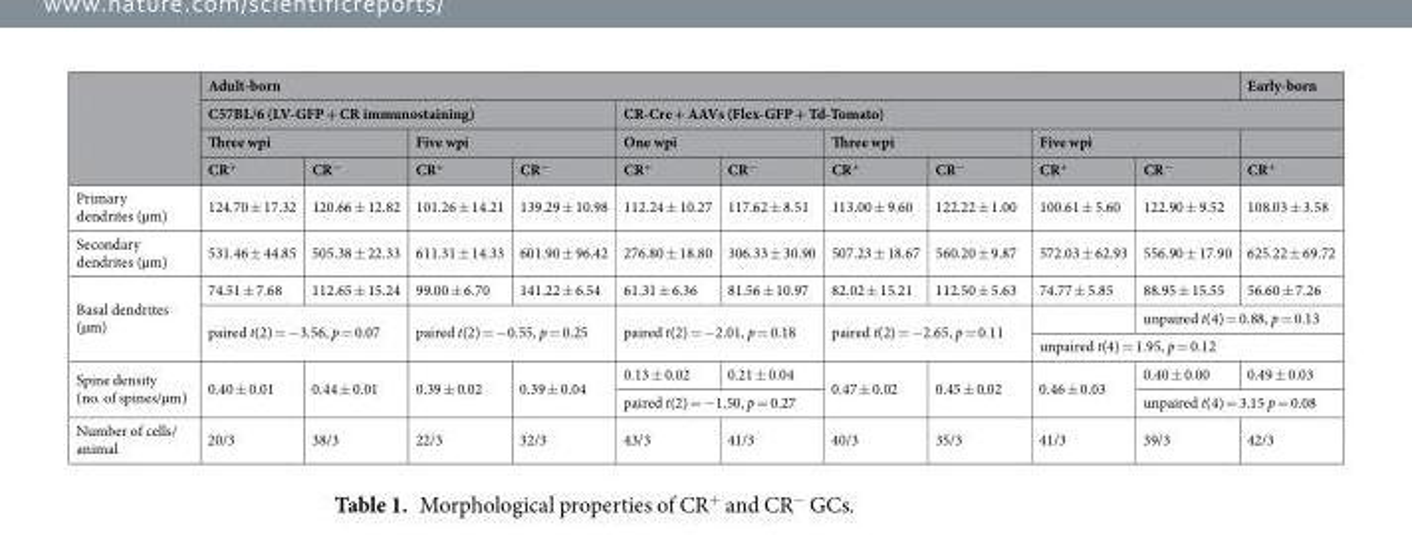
<table><thead><tr><td rowspan="4"></td><td colspan="10">Adult-born</td><td>Early-born</td></tr><tr><td colspan="4">C57BL/6 (LV-GFP + CR immunostaining)</td><td colspan="7">CR-Cre + AAVs (Flex-GFP + Td-Tomato)</td></tr><tr><td colspan="2">Three wpi</td><td colspan="2">Five wpi</td><td colspan="2">One wpi</td><td colspan="2">Three wpi</td><td colspan="2">Five wpi</td><td rowspan="2">CR<sup>+</sup></td></tr><tr><td>CR<sup>+</sup></td><td>CR<sup>−</sup></td><td>CR<sup>+</sup></td><td>CR<sup>−</sup></td><td>CR<sup>+</sup></td><td>CR<sup>−</sup></td><td>CR<sup>+</sup></td><td>CR<sup>−</sup></td><td>CR<sup>+</sup></td><td>CR<sup>−</sup></td></tr></thead><tbody><tr><td>Primary dendrites (µm)</td><td>124.70 ± 17.32</td><td>120.66 ± 12.82</td><td>101.26 ± 14.21</td><td>139.29 ± 10.98</td><td>112.24 ± 10.27</td><td>117.62 ± 8.51</td><td>113.00 ± 9.60</td><td>122.22 ± 1.00</td><td>100.61 ± 5.60</td><td>122.90 ± 9.52</td><td>108.03 ± 3.58</td></tr><tr><td>Secondary dendrites (µm)</td><td>531.46 ± 44.85</td><td>505.38 ± 22.33</td><td>611.31 ± 14.33</td><td>601.90 ± 96.42</td><td>276.80 ± 18.80</td><td>306.33 ± 30.90</td><td>507.23 ± 18.67</td><td>560.20 ± 9.87</td><td>572.03 ± 62.93</td><td>556.90 ± 17.90</td><td>625.22 ± 69.72</td></tr><tr><td rowspan="3">Basal dendrites (µm)</td><td>74.51 ± 7.68</td><td>112.65 ± 15.24</td><td>99.00 ± 6.70</td><td>141.22 ± 6.54</td><td>61.31 ± 6.36</td><td>81.56 ± 10.97</td><td>82.02 ± 15.21</td><td>112.50 ± 5.63</td><td>74.77 ± 5.85</td><td>88.95 ± 15.55</td><td>56.60 ± 7.26</td></tr><tr><td rowspan="2" colspan="2">paired t(2) = −3.56, p = 0.07</td><td rowspan="2" colspan="2">paired t(2) = −0.55, p = 0.25</td><td rowspan="2" colspan="2">paired t(2) = −2.01, p = 0.18</td><td rowspan="2" colspan="2">paired t(2) = −2.65, p = 0.11</td><td></td><td colspan="2">unpaired t(4) = 0.88, p = 0.13</td></tr><tr><td colspan="3">unpaired t(4) = 1.95, p = 0.12</td></tr><tr><td rowspan="2">Spine density (no. of spines/µm)</td><td rowspan="2">0.40 ± 0.01</td><td rowspan="2">0.44 ± 0.01</td><td rowspan="2">0.39 ± 0.02</td><td rowspan="2">0.39 ± 0.04</td><td>0.13 ± 0.02</td><td>0.21 ± 0.04</td><td rowspan="2">0.47 ± 0.02</td><td rowspan="2">0.45 ± 0.02</td><td rowspan="2">0.46 ± 0.03</td><td>0.40 ± 0.00</td><td>0.49 ± 0.03</td></tr><tr><td colspan="2">paired t(2) = −1.50, p = 0.27</td><td colspan="2">unpaired t(4) = 3.15 p = 0.08</td></tr><tr><td>Number of cells/ animal</td><td>20/3</td><td>38/3</td><td>22/3</td><td>32/3</td><td>43/3</td><td>41/3</td><td>40/3</td><td>35/3</td><td>41/3</td><td>39/3</td><td>42/3</td></tr></tbody></table>